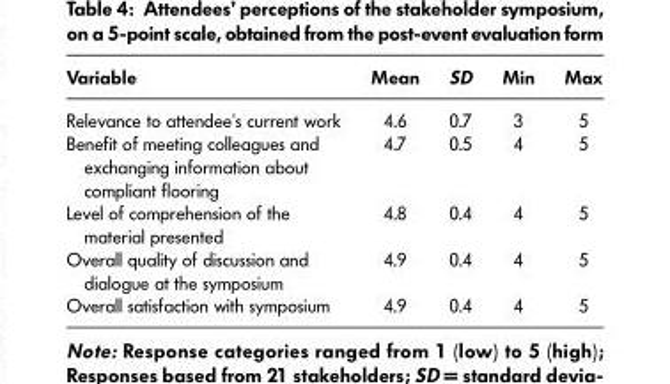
<table><thead><tr><td>Variable</td><td>Mean</td><td>SD</td><td>Min</td><td>Max</td></tr></thead><tbody><tr><td>Relevance to attendee’s current work</td><td>4.6</td><td>0.7</td><td>3</td><td>5</td></tr><tr><td>Benefit of meeting colleagues and exchanging information about compliant flooring</td><td>4.7</td><td>0.5</td><td>4</td><td>5</td></tr><tr><td>Level of comprehension of the material presented</td><td>4.8</td><td>0.4</td><td>4</td><td>5</td></tr><tr><td>Overall quality of discussion and dialogue at the symposium</td><td>4.9</td><td>0.4</td><td>4</td><td>5</td></tr><tr><td>Overall satisfaction with symposium</td><td>4.9</td><td>0.4</td><td>4</td><td>5</td></tr></tbody></table>